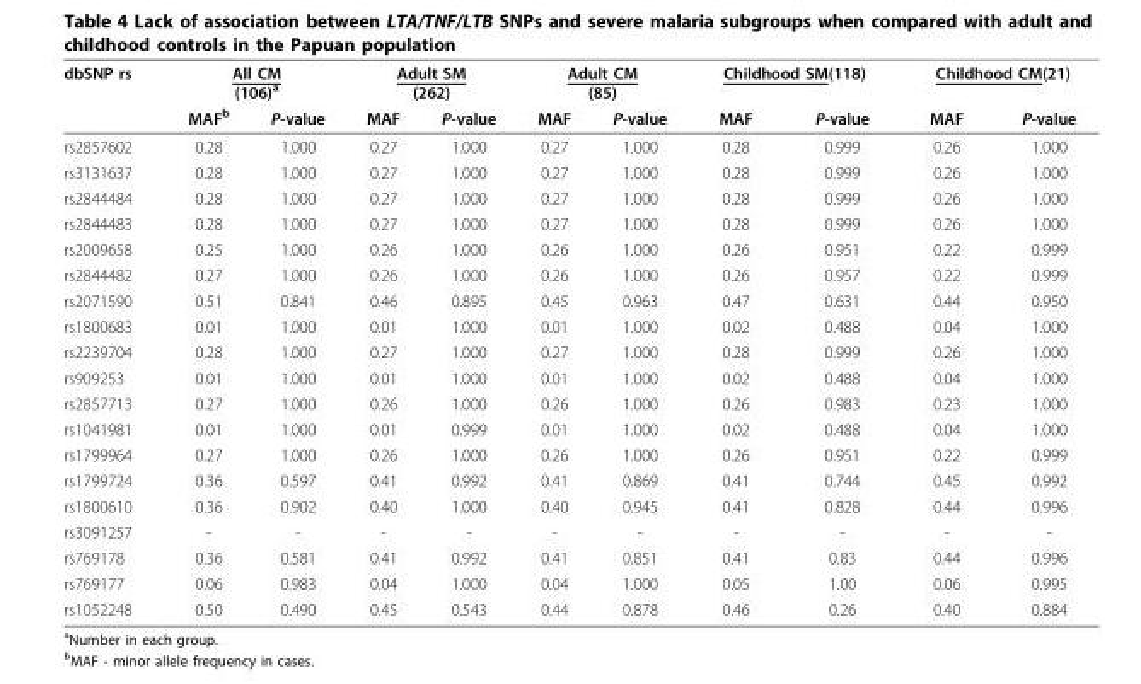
<table><thead><tr><td rowspan="2">dbSNP rs</td><td colspan="2">All CM (106)<sup>a</sup></td><td colspan="2">Adult SM (262)</td><td colspan="2">Adult CM (85)</td><td colspan="2">Childhood SM(118)</td><td colspan="2">Childhood CM(21)</td></tr><tr><td>MAF<sup>b</sup></td><td>P-value</td><td>MAF</td><td>P-value</td><td>MAF</td><td>P-value</td><td>MAF</td><td>P-value</td><td>MAF</td><td>P-value</td></tr></thead><tbody><tr><td>rs2857602</td><td>0.28</td><td>1.000</td><td>0.27</td><td>1.000</td><td>0.27</td><td>1.000</td><td>0.28</td><td>0.999</td><td>0.26</td><td>1.000</td></tr><tr><td>rs3131637</td><td>0.28</td><td>1.000</td><td>0.27</td><td>1.000</td><td>0.27</td><td>1.000</td><td>0.28</td><td>0.999</td><td>0.26</td><td>1.000</td></tr><tr><td>rs2844484</td><td>0.28</td><td>1.000</td><td>0.27</td><td>1.000</td><td>0.27</td><td>1.000</td><td>0.28</td><td>0.999</td><td>0.26</td><td>1.000</td></tr><tr><td>rs2844483</td><td>0.28</td><td>1.000</td><td>0.27</td><td>1.000</td><td>0.27</td><td>1.000</td><td>0.28</td><td>0.999</td><td>0.26</td><td>1.000</td></tr><tr><td>rs2009658</td><td>0.25</td><td>1.000</td><td>0.26</td><td>1.000</td><td>0.26</td><td>1.000</td><td>0.26</td><td>0.951</td><td>0.22</td><td>0.999</td></tr><tr><td>rs2844482</td><td>0.27</td><td>1.000</td><td>0.26</td><td>1.000</td><td>0.26</td><td>1.000</td><td>0.26</td><td>0.957</td><td>0.22</td><td>0.999</td></tr><tr><td>rs2071590</td><td>0.51</td><td>0.841</td><td>0.46</td><td>0.895</td><td>0.45</td><td>0.963</td><td>0.47</td><td>0.631</td><td>0.44</td><td>0.950</td></tr><tr><td>rs1800683</td><td>0.01</td><td>1.000</td><td>0.01</td><td>1.000</td><td>0.01</td><td>1.000</td><td>0.02</td><td>0.488</td><td>0.04</td><td>1.000</td></tr><tr><td>rs2239704</td><td>0.28</td><td>1.000</td><td>0.27</td><td>1.000</td><td>0.27</td><td>1.000</td><td>0.28</td><td>0.999</td><td>0.26</td><td>1.000</td></tr><tr><td>rs909253</td><td>0.01</td><td>1.000</td><td>0.01</td><td>1.000</td><td>0.01</td><td>1.000</td><td>0.02</td><td>0.488</td><td>0.04</td><td>1.000</td></tr><tr><td>rs2857713</td><td>0.27</td><td>1.000</td><td>0.26</td><td>1.000</td><td>0.26</td><td>1.000</td><td>0.26</td><td>0.983</td><td>0.23</td><td>1.000</td></tr><tr><td>rs1041981</td><td>0.01</td><td>1.000</td><td>0.01</td><td>0.999</td><td>0.01</td><td>1.000</td><td>0.02</td><td>0.488</td><td>0.04</td><td>1.000</td></tr><tr><td>rs1799964</td><td>0.27</td><td>1.000</td><td>0.26</td><td>1.000</td><td>0.26</td><td>1.000</td><td>0.26</td><td>0.951</td><td>0.22</td><td>0.999</td></tr><tr><td>rs1799724</td><td>0.36</td><td>0.597</td><td>0.41</td><td>0.992</td><td>0.41</td><td>0.869</td><td>0.41</td><td>0.744</td><td>0.45</td><td>0.992</td></tr><tr><td>rs1800610</td><td>0.36</td><td>0.902</td><td>0.40</td><td>1.000</td><td>0.40</td><td>0.945</td><td>0.41</td><td>0.828</td><td>0.44</td><td>0.996</td></tr><tr><td>rs3091257</td><td>-</td><td>-</td><td>-</td><td>-</td><td>-</td><td>-</td><td>-</td><td>-</td><td>-</td><td>-</td></tr><tr><td>rs769178</td><td>0.36</td><td>0.581</td><td>0.41</td><td>0.992</td><td>0.41</td><td>0.851</td><td>0.41</td><td>0.83</td><td>0.44</td><td>0.996</td></tr><tr><td>rs769177</td><td>0.06</td><td>0.983</td><td>0.04</td><td>1.000</td><td>0.04</td><td>1.000</td><td>0.05</td><td>1.00</td><td>0.06</td><td>0.995</td></tr><tr><td>rs1052248</td><td>0.50</td><td>0.490</td><td>0.45</td><td>0.543</td><td>0.44</td><td>0.878</td><td>0.46</td><td>0.26</td><td>0.40</td><td>0.884</td></tr></tbody></table>